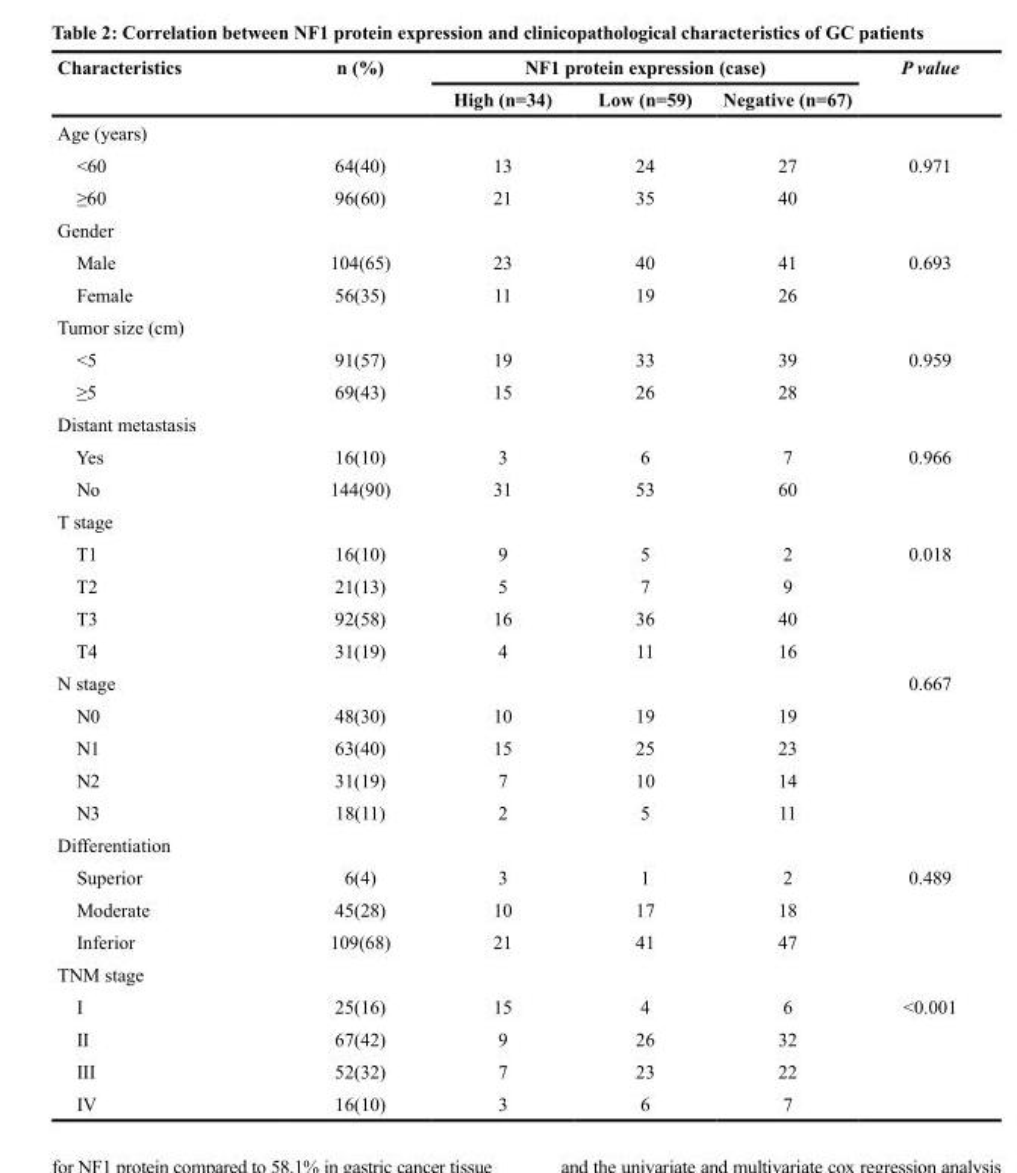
<table><thead><tr><td rowspan="2">Characteristics</td><td rowspan="2">n (%)</td><td colspan="3">NF1 protein expression (case)</td><td rowspan="2">P value</td></tr><tr><td>High (n=34)</td><td>Low (n=59)</td><td>Negative (n=67)</td></tr></thead><tbody><tr><td colspan="6">Age (years)</td></tr><tr><td>&lt;60</td><td>64(40)</td><td>13</td><td>24</td><td>27</td><td>0.971</td></tr><tr><td>≥60</td><td>96(60)</td><td>21</td><td>35</td><td>40</td><td></td></tr><tr><td colspan="6">Gender</td></tr><tr><td>Male</td><td>104(65)</td><td>23</td><td>40</td><td>41</td><td>0.693</td></tr><tr><td>Female</td><td>56(35)</td><td>11</td><td>19</td><td>26</td><td></td></tr><tr><td colspan="6">Tumor size (cm)</td></tr><tr><td>&lt;5</td><td>91(57)</td><td>19</td><td>33</td><td>39</td><td>0.959</td></tr><tr><td>≥5</td><td>69(43)</td><td>15</td><td>26</td><td>28</td><td></td></tr><tr><td colspan="6">Distant metastasis</td></tr><tr><td>Yes</td><td>16(10)</td><td>3</td><td>6</td><td>7</td><td>0.966</td></tr><tr><td>No</td><td>144(90)</td><td>31</td><td>53</td><td>60</td><td></td></tr><tr><td colspan="6">T stage</td></tr><tr><td>T1</td><td>16(10)</td><td>9</td><td>5</td><td>2</td><td>0.018</td></tr><tr><td>T2</td><td>21(13)</td><td>5</td><td>7</td><td>9</td><td></td></tr><tr><td>T3</td><td>92(58)</td><td>16</td><td>36</td><td>40</td><td></td></tr><tr><td>T4</td><td>31(19)</td><td>4</td><td>11</td><td>16</td><td></td></tr><tr><td>N stage</td><td></td><td></td><td></td><td></td><td>0.667</td></tr><tr><td>N0</td><td>48(30)</td><td>10</td><td>19</td><td>19</td><td></td></tr><tr><td>N1</td><td>63(40)</td><td>15</td><td>25</td><td>23</td><td></td></tr><tr><td>N2</td><td>31(19)</td><td>7</td><td>10</td><td>14</td><td></td></tr><tr><td>N3</td><td>18(11)</td><td>2</td><td>5</td><td>11</td><td></td></tr><tr><td colspan="6">Differentiation</td></tr><tr><td>Superior</td><td>6(4)</td><td>3</td><td>1</td><td>2</td><td>0.489</td></tr><tr><td>Moderate</td><td>45(28)</td><td>10</td><td>17</td><td>18</td><td></td></tr><tr><td>Inferior</td><td>109(68)</td><td>21</td><td>41</td><td>47</td><td></td></tr><tr><td colspan="6">TNM stage</td></tr><tr><td>I</td><td>25(16)</td><td>15</td><td>4</td><td>6</td><td>&lt;0.001</td></tr><tr><td>II</td><td>67(42)</td><td>9</td><td>26</td><td>32</td><td></td></tr><tr><td>III</td><td>52(32)</td><td>7</td><td>23</td><td>22</td><td></td></tr><tr><td>IV</td><td>16(10)</td><td>3</td><td>6</td><td>7</td><td></td></tr></tbody></table>